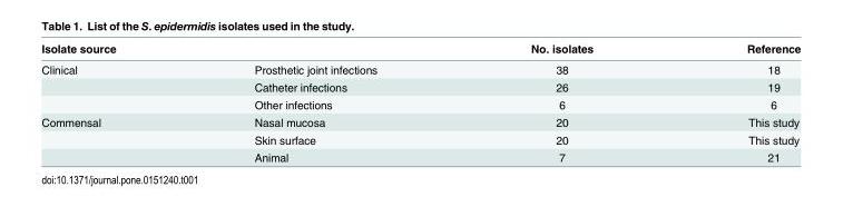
<table><thead><tr><td colspan="2">Isolate source</td><td rowspan="2">No. isolates 38</td><td rowspan="2">Reference 18</td></tr><tr><td>Clinical</td><td>Prosthetic joint infections</td></tr></thead><tbody><tr><td></td><td>Catheter infections</td><td>26</td><td>19</td></tr><tr><td></td><td>Other infections</td><td>6</td><td>6</td></tr><tr><td rowspan="3">Commensal</td><td>Nasal mucosa</td><td>20</td><td>This study</td></tr><tr><td>Skin surface</td><td>20</td><td>This study</td></tr><tr><td>Animal</td><td>7</td><td>21</td></tr></tbody></table>